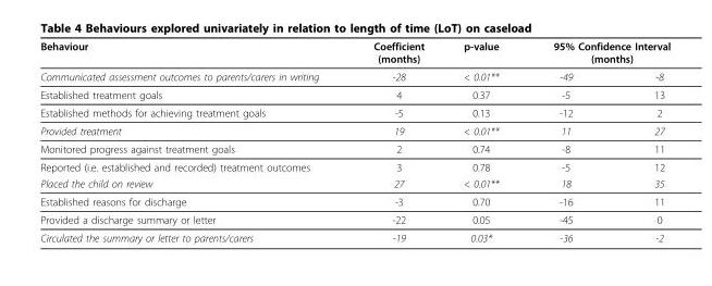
<table><thead><tr><td rowspan="2">Behaviour Communicated assessment outcomes to parents/carers in writing</td><td rowspan="2">Coefficient (months) -28</td><td rowspan="2">p-value &lt; 0.01**</td><td colspan="2">95% Confidence Interval (months)</td></tr><tr><td>-49</td><td>-8</td></tr></thead><tbody><tr><td>Established treatment goals</td><td>4</td><td>0.37</td><td>-5</td><td>13</td></tr><tr><td>Established methods for achieving treatment goals</td><td>-5</td><td>0.13</td><td>-12</td><td>2</td></tr><tr><td>Provided treatment</td><td>19</td><td>&lt; 0.01**</td><td>11</td><td>27</td></tr><tr><td>Monitored progress against treatment goals</td><td>2</td><td>0.74</td><td>-8</td><td>11</td></tr><tr><td>Reported (i.e. established and recorded) treatment outcomes</td><td>3</td><td>0.78</td><td>-5</td><td>12</td></tr><tr><td>Placed the child on review</td><td>27</td><td>&lt; 0.01**</td><td>18</td><td>35</td></tr><tr><td>Established reasons for discharge</td><td>-3</td><td>0.70</td><td>-16</td><td>11</td></tr><tr><td>Provided a discharge summary or letter</td><td>-22</td><td>0.05</td><td>-45</td><td>0</td></tr><tr><td>Circulated the summary or letter to parents/carers</td><td>-19</td><td>0.03*</td><td>-36</td><td>-2</td></tr></tbody></table>